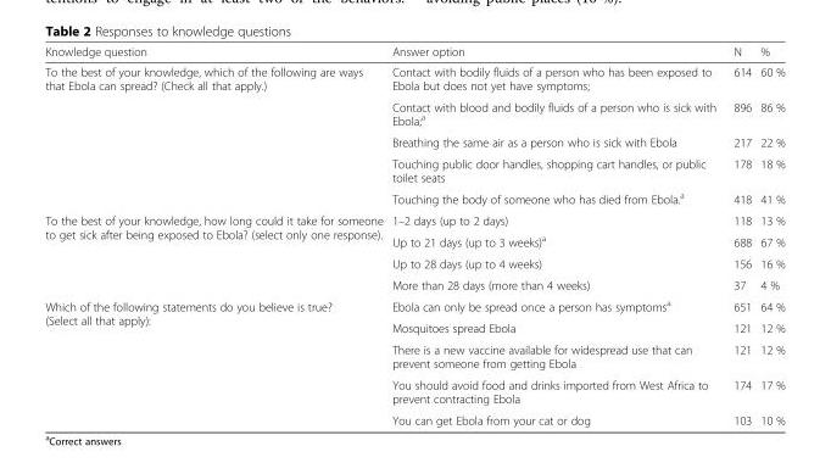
<table><thead><tr><td>Knowledge question</td><td>Answer option</td><td>N</td><td>%</td></tr></thead><tbody><tr><td rowspan="5">To the best of your knowledge, which of the following are ways that Ebola can spread? (Check all that apply.)</td><td>Contact with bodily fluids of a person who has been exposed to Ebola but does not yet have symptoms;</td><td>614</td><td>60 %</td></tr><tr><td>Contact with blood and bodily fluids of a person who is sick with Ebola;<sup>a</sup></td><td>896</td><td>86 %</td></tr><tr><td>Breathing the same air as a person who is sick with Ebola</td><td>217</td><td>22 %</td></tr><tr><td>Touching public door handles, shopping cart handles, or public toilet seats</td><td>178</td><td>18 %</td></tr><tr><td>Touching the body of someone who has died from Ebola.<sup>a</sup></td><td>418</td><td>41 %</td></tr><tr><td rowspan="4">To the best of your knowledge, how long could it take for someone to get sick after being exposed to Ebola? (select only one response).</td><td>1–2 days (up to 2 days)</td><td>118</td><td>13 %</td></tr><tr><td>Up to 21 days (up to 3 weeks)<sup>a</sup></td><td>688</td><td>67 %</td></tr><tr><td>Up to 28 days (up to 4 weeks)</td><td>156</td><td>16 %</td></tr><tr><td>More than 28 days (more than 4 weeks)</td><td>37</td><td>4 %</td></tr><tr><td rowspan="5">Which of the following statements do you believe is true? (Select all that apply):</td><td>Ebola can only be spread once a person has symptoms<sup>a</sup></td><td>651</td><td>64 %</td></tr><tr><td>Mosquitoes spread Ebola</td><td>121</td><td>12 %</td></tr><tr><td>There is a new vaccine available for widespread use that can prevent someone from getting Ebola</td><td>121</td><td>12 %</td></tr><tr><td>You should avoid food and drinks imported from West Africa to prevent contracting Ebola</td><td>174</td><td>17 %</td></tr><tr><td>You can get Ebola from your cat or dog</td><td>103</td><td>10 %</td></tr></tbody></table>